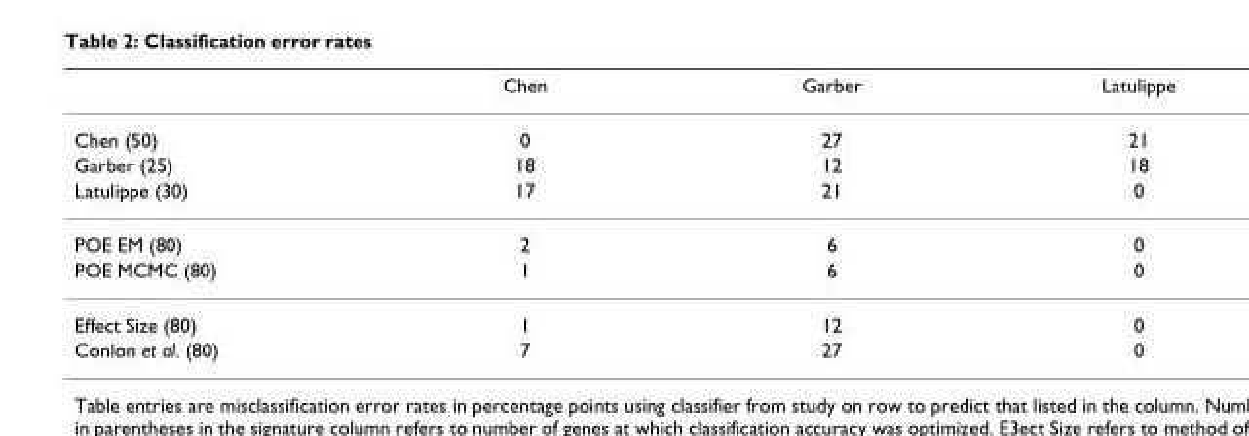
<table><thead><tr><td></td><td>Chen</td><td>Garber</td><td>Latulippe</td></tr></thead><tbody><tr><td>Chen (50)</td><td>0</td><td>27</td><td>21</td></tr><tr><td>Garber (25)</td><td>18</td><td>12</td><td>18</td></tr><tr><td>Latulippe (30)</td><td>17</td><td>21</td><td>0</td></tr><tr><td>POE EM (80)</td><td>2</td><td>6</td><td>0</td></tr><tr><td>POE MCMC (80)</td><td>1</td><td>6</td><td>0</td></tr><tr><td>Effect Size (80)</td><td>1</td><td>12</td><td>0</td></tr><tr><td>Conlon et al. (80)</td><td>7</td><td>27</td><td>0</td></tr></tbody></table>